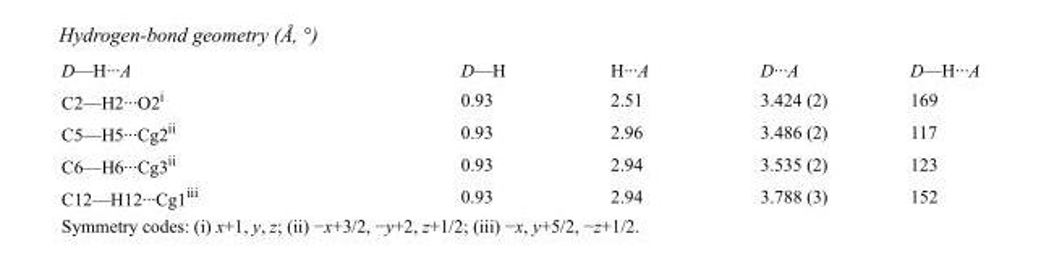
<table><tbody><tr><td>D—H···A</td><td>D—H</td><td>H···A</td><td>D···A</td><td>D—H···A</td></tr><tr><td>C2—H2···O2<sup>i</sup></td><td>0.93</td><td>2.51</td><td>3.424 (2)</td><td>169</td></tr><tr><td>C5—H5···Cg2<sup>ii</sup></td><td>0.93</td><td>2.96</td><td>3.486 (2)</td><td>117</td></tr><tr><td>C6—H6···Cg3<sup>ii</sup></td><td>0.93</td><td>2.94</td><td>3.535 (2)</td><td>123</td></tr><tr><td>C12—H12···Cg1<sup>iii</sup></td><td>0.93</td><td>2.94</td><td>3.788 (3)</td><td>152</td></tr></tbody></table>